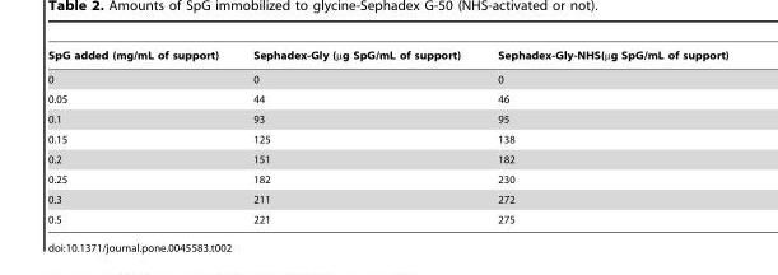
<table><thead><tr><td>SpG added (mg/mL of support)</td><td>Sephadex-Gly (µg SpG/mL of support)</td><td>Sephadex-Gly-NHS(µg SpG/mL of support)</td></tr></thead><tbody><tr><td>0</td><td>0</td><td>0</td></tr><tr><td>0.05</td><td>44</td><td>46</td></tr><tr><td>0.1</td><td>93</td><td>95</td></tr><tr><td>0.15</td><td>125</td><td>138</td></tr><tr><td>0.2</td><td>151</td><td>182</td></tr><tr><td>0.25</td><td>182</td><td>230</td></tr><tr><td>0.3</td><td>211</td><td>272</td></tr><tr><td>0.5</td><td>221</td><td>275</td></tr></tbody></table>